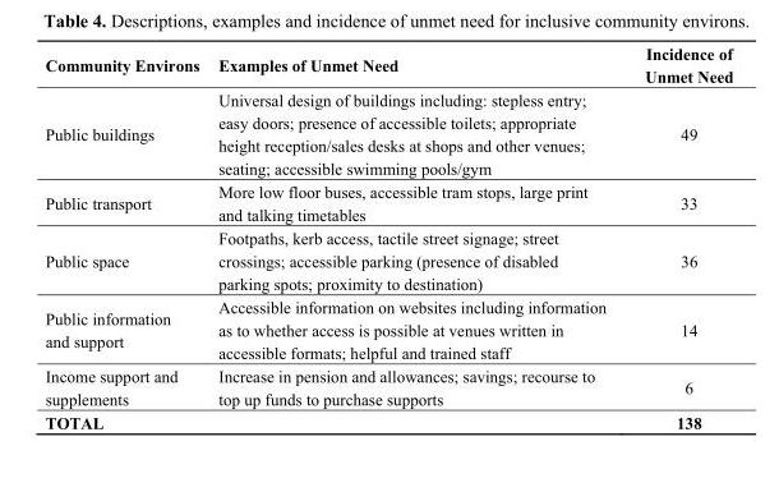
<table><thead><tr><td>Community Environs</td><td>Examples of Unmet Need</td><td>Incidence of Unmet Need</td></tr></thead><tbody><tr><td>Public buildings</td><td>Universal design of buildings including: stepless entry; easy doors; presence of accessible toilets; appropriate height reception/sales desks at shops and other venues; seating; accessible swimming pools/gym</td><td>49</td></tr><tr><td>Public transport</td><td>More low floor buses, accessible tram stops, large print and talking timetables</td><td>33</td></tr><tr><td>Public space</td><td>Footpaths, kerb access, tactile street signage; street crossings; accessible parking (presence of disabled parking spots; proximity to destination)</td><td>36</td></tr><tr><td>Public information and support</td><td>Accessible information on websites including information as to whether access is possible at venues written in accessible formats; helpful and trained staff</td><td>14</td></tr><tr><td>Income support and supplements</td><td>Increase in pension and allowances; savings; recourse to top up funds to purchase supports</td><td>6</td></tr><tr><td colspan="2">TOTAL</td><td>138</td></tr></tbody></table>